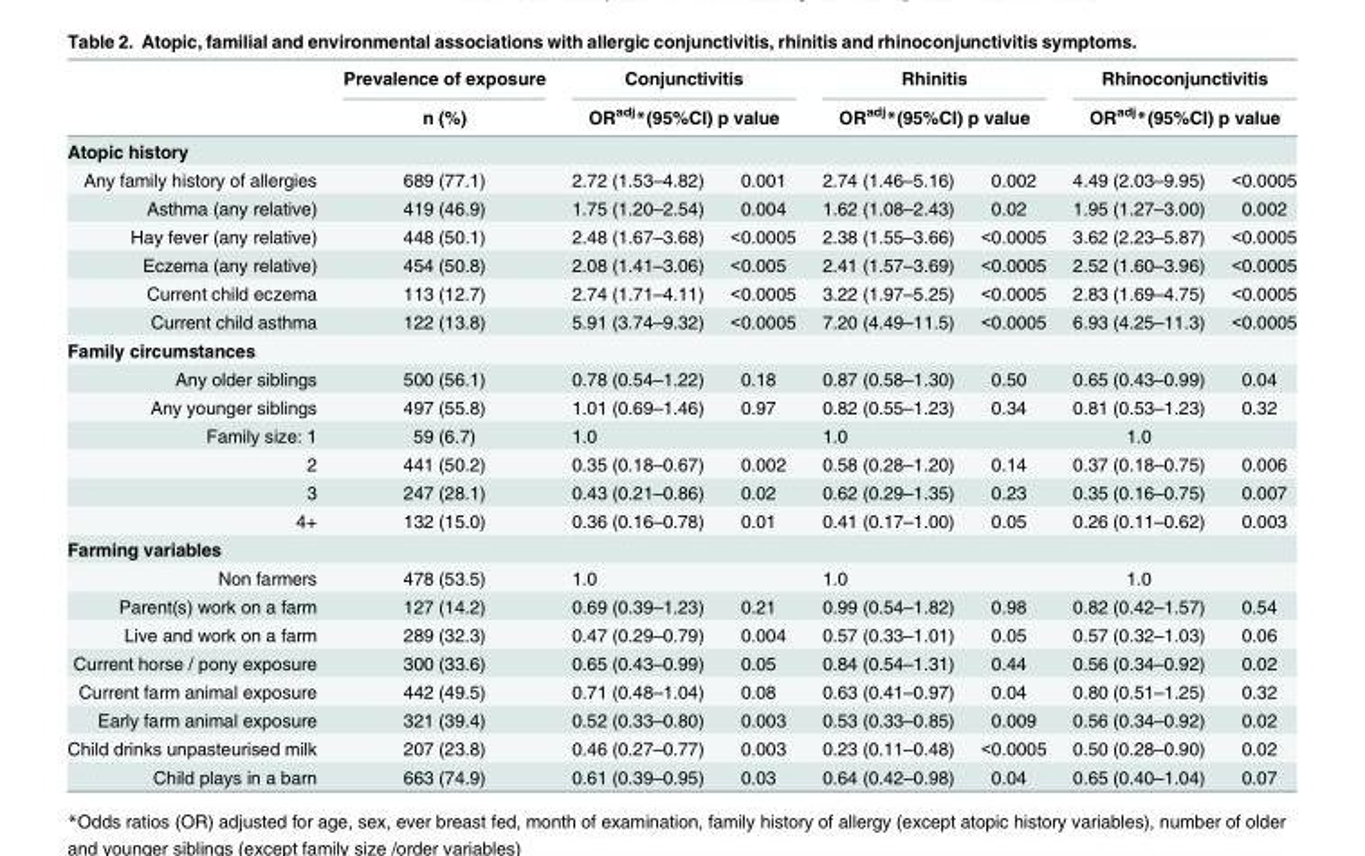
<table><thead><tr><td rowspan="3">Atopic history</td><td rowspan="3">Prevalence of exposure n (%)</td><td rowspan="2" colspan="2">Conjunctivitis OR<sup>adj</sup>*(95%CI) p value</td><td rowspan="2" colspan="2">Rhinitis OR<sup>adj</sup>*(95%CI) p value</td><td rowspan="2" colspan="2">Rhinoconjunctivitis OR<sup>adj</sup>*(95%CI) p value</td></tr><tr></tr><tr><td></td><td></td><td></td><td></td><td></td><td></td></tr></thead><tbody><tr><td>Any family history of allergies</td><td>689 (77.1)</td><td>2.72 (1.53–4.82)</td><td>0.001</td><td>2.74 (1.46–5.16)</td><td>0.002</td><td>4.49 (2.03–9.95)</td><td>&lt;0.0005</td></tr><tr><td>Asthma (any relative)</td><td>419 (46.9)</td><td>1.75 (1.20–2.54)</td><td>0.004</td><td>1.62 (1.08–2.43)</td><td>0.02</td><td>1.95 (1.27–3.00)</td><td>0.002</td></tr><tr><td>Hay fever (any relative)</td><td>448 (50.1)</td><td>2.48 (1.67–3.68)</td><td>&lt;0.0005</td><td>2.38 (1.55–3.66)</td><td>&lt;0.0005</td><td>3.62 (2.23–5.87)</td><td>&lt;0.0005</td></tr><tr><td>Eczema (any relative)</td><td>454 (50.8)</td><td>2.08 (1.41–3.06)</td><td>&lt;0.005</td><td>2.41 (1.57–3.69)</td><td>&lt;0.0005</td><td>2.52 (1.60–3.96)</td><td>&lt;0.0005</td></tr><tr><td>Current child eczema</td><td>113 (12.7)</td><td>2.74 (1.71–4.11)</td><td>&lt;0.0005</td><td>3.22 (1.97–5.25)</td><td>&lt;0.0005</td><td>2.83 (1.69–4.75)</td><td>&lt;0.0005</td></tr><tr><td>Current child asthma</td><td>122 (13.8)</td><td>5.91 (3.74–9.32)</td><td>&lt;0.0005</td><td>7.20 (4.49–11.5)</td><td>&lt;0.0005</td><td>6.93 (4.25–11.3)</td><td>&lt;0.0005</td></tr><tr><td colspan="8">Family circumstances</td></tr><tr><td>Any older siblings</td><td>500 (56.1)</td><td>0.78 (0.54–1.22)</td><td>0.18</td><td>0.87 (0.58–1.30)</td><td>0.50</td><td>0.65 (0.43–0.99)</td><td>0.04</td></tr><tr><td>Any younger siblings</td><td>497 (55.8)</td><td>1.01 (0.69–1.46)</td><td>0.97</td><td>0.82 (0.55–1.23)</td><td>0.34</td><td>0.81 (0.53–1.23)</td><td>0.32</td></tr><tr><td>Family size: 1</td><td>59 (6.7)</td><td>1.0</td><td></td><td>1.0</td><td></td><td>1.0</td><td></td></tr><tr><td>2</td><td>441 (50.2)</td><td>0.35 (0.18–0.67)</td><td>0.002</td><td>0.58 (0.28–1.20)</td><td>0.14</td><td>0.37 (0.18–0.75)</td><td>0.006</td></tr><tr><td>3</td><td>247 (28.1)</td><td>0.43 (0.21–0.86)</td><td>0.02</td><td>0.62 (0.29–1.35)</td><td>0.23</td><td>0.35 (0.16–0.75)</td><td>0.007</td></tr><tr><td>4+</td><td>132 (15.0)</td><td>0.36 (0.16–0.78)</td><td>0.01</td><td>0.41 (0.17–1.00)</td><td>0.05</td><td>0.26 (0.11–0.62)</td><td>0.003</td></tr><tr><td colspan="8">Farming variables</td></tr><tr><td>Non farmers</td><td>478 (53.5)</td><td>1.0</td><td></td><td>1.0</td><td></td><td>1.0</td><td></td></tr><tr><td>Parent(s) work on a farm</td><td>127 (14.2)</td><td>0.69 (0.39–1.23)</td><td>0.21</td><td>0.99 (0.54–1.82)</td><td>0.98</td><td>0.82 (0.42–1.57)</td><td>0.54</td></tr><tr><td>Live and work on a farm</td><td>289 (32.3)</td><td>0.47 (0.29–0.79)</td><td>0.004</td><td>0.57 (0.33–1.01)</td><td>0.05</td><td>0.57 (0.32–1.03)</td><td>0.06</td></tr><tr><td>Current horse / pony exposure</td><td>300 (33.6)</td><td>0.65 (0.43–0.99)</td><td>0.05</td><td>0.84 (0.54–1.31)</td><td>0.44</td><td>0.56 (0.34–0.92)</td><td>0.02</td></tr><tr><td>Current farm animal exposure</td><td>442 (49.5)</td><td>0.71 (0.48–1.04)</td><td>0.08</td><td>0.63 (0.41–0.97)</td><td>0.04</td><td>0.80 (0.51–1.25)</td><td>0.32</td></tr><tr><td>Early farm animal exposure</td><td>321 (39.4)</td><td>0.52 (0.33–0.80)</td><td>0.003</td><td>0.53 (0.33–0.85)</td><td>0.009</td><td>0.56 (0.34–0.92)</td><td>0.02</td></tr><tr><td>Child drinks unpasteurised milk</td><td>207 (23.8)</td><td>0.46 (0.27–0.77)</td><td>0.003</td><td>0.23 (0.11–0.48)</td><td>&lt;0.0005</td><td>0.50 (0.28–0.90)</td><td>0.02</td></tr><tr><td>Child plays in a barn</td><td>663 (74.9)</td><td>0.61 (0.39–0.95)</td><td>0.03</td><td>0.64 (0.42–0.98)</td><td>0.04</td><td>0.65 (0.40–1.04)</td><td>0.07</td></tr></tbody></table>